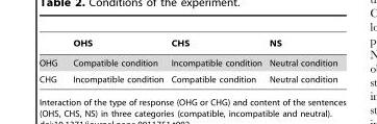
<table><thead><tr><td></td><td>OHS</td><td>CHS</td><td>NS</td></tr></thead><tbody><tr><td>OHG</td><td>Compatible condition</td><td>Incompatible condition</td><td>Neutral condition</td></tr><tr><td>CHG</td><td>Incompatible condition</td><td>Compatible condition</td><td>Neutral condition</td></tr></tbody></table>